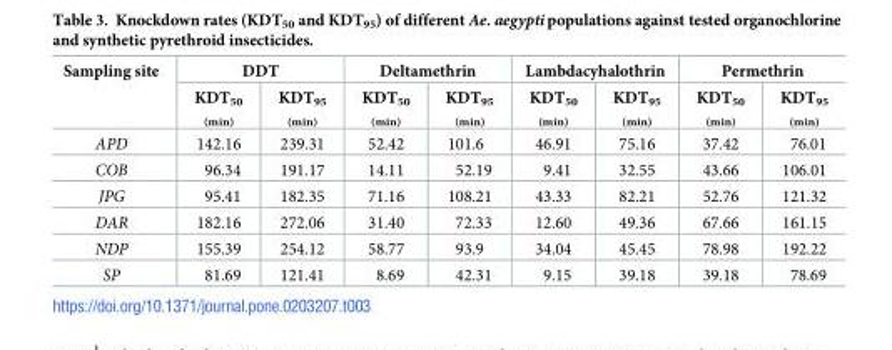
<table><thead><tr><td rowspan="2">Sampling site</td><td colspan="2">DDT</td><td colspan="2">Deltamethrin</td><td colspan="2">Lambdacyhalothrin</td><td colspan="2">Permethrin</td></tr><tr><td>KDT<sub>50 (min)</sub></td><td>KDT<sub>95 (min)</sub></td><td>KDT<sub>50 (min)</sub></td><td>KDT<sub>95 (min)</sub></td><td>KDT<sub>50 (min)</sub></td><td>KDT<sub>95 (min)</sub></td><td>KDT<sub>50 (min)</sub></td><td>KDT<sub>95 (min)</sub></td></tr></thead><tbody><tr><td>APD</td><td>142.16</td><td>239.31</td><td>52.42</td><td>101.6</td><td>46.91</td><td>75.16</td><td>37.42</td><td>76.01</td></tr><tr><td>COB</td><td>96.34</td><td>191.17</td><td>14.11</td><td>52.19</td><td>9.41</td><td>32.55</td><td>43.66</td><td>106.01</td></tr><tr><td>JPG</td><td>95.41</td><td>182.35</td><td>71.16</td><td>108.21</td><td>43.33</td><td>82.21</td><td>52.76</td><td>121.32</td></tr><tr><td>DAR</td><td>182.16</td><td>272.06</td><td>31.40</td><td>72.33</td><td>12.60</td><td>49.36</td><td>67.66</td><td>161.15</td></tr><tr><td>NDP</td><td>155.39</td><td>254.12</td><td>58.77</td><td>93.9</td><td>34.04</td><td>45.45</td><td>78.98</td><td>192.22</td></tr><tr><td>SP</td><td>81.69</td><td>121.41</td><td>8.69</td><td>42.31</td><td>9.15</td><td>39.18</td><td>39.18</td><td>78.69</td></tr></tbody></table>